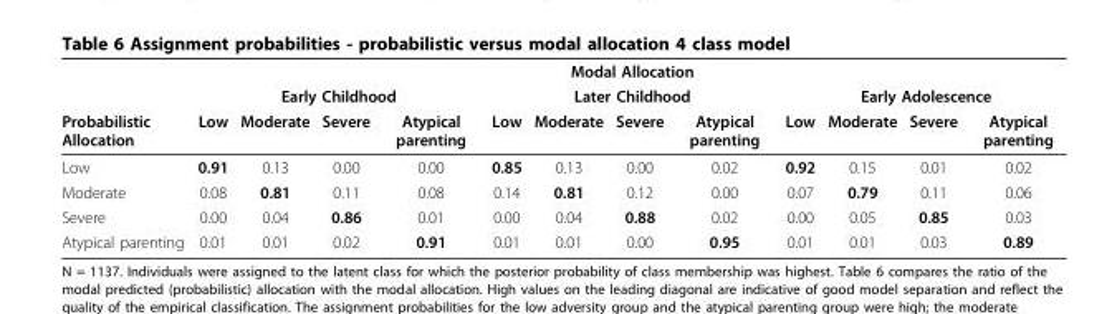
<table><thead><tr><td rowspan="3">Probabilistic Allocation</td><td colspan="12">Modal Allocation</td></tr><tr><td colspan="4">Early Childhood</td><td colspan="4">Later Childhood</td><td colspan="4">Early Adolescence</td></tr><tr><td>Low</td><td>Moderate</td><td>Severe</td><td>Atypical parenting</td><td>Low</td><td>Moderate</td><td>Severe</td><td>Atypical parenting</td><td>Low</td><td>Moderate</td><td>Severe</td><td>Atypical parenting</td></tr></thead><tbody><tr><td>Low</td><td>0.91</td><td>0.13</td><td>0.00</td><td>0.00</td><td>0.85</td><td>0.13</td><td>0.00</td><td>0.02</td><td>0.92</td><td>0.15</td><td>0.01</td><td>0.02</td></tr><tr><td>Moderate</td><td>0.08</td><td>0.81</td><td>0.11</td><td>0.08</td><td>0.14</td><td>0.81</td><td>0.12</td><td>0.00</td><td>0.07</td><td>0.79</td><td>0.11</td><td>0.06</td></tr><tr><td>Severe</td><td>0.00</td><td>0.04</td><td>0.86</td><td>0.01</td><td>0.00</td><td>0.04</td><td>0.88</td><td>0.02</td><td>0.00</td><td>0.05</td><td>0.85</td><td>0.03</td></tr><tr><td>Atypical parenting</td><td>0.01</td><td>0.01</td><td>0.02</td><td>0.91</td><td>0.01</td><td>0.01</td><td>0.00</td><td>0.95</td><td>0.01</td><td>0.01</td><td>0.03</td><td>0.89</td></tr></tbody></table>